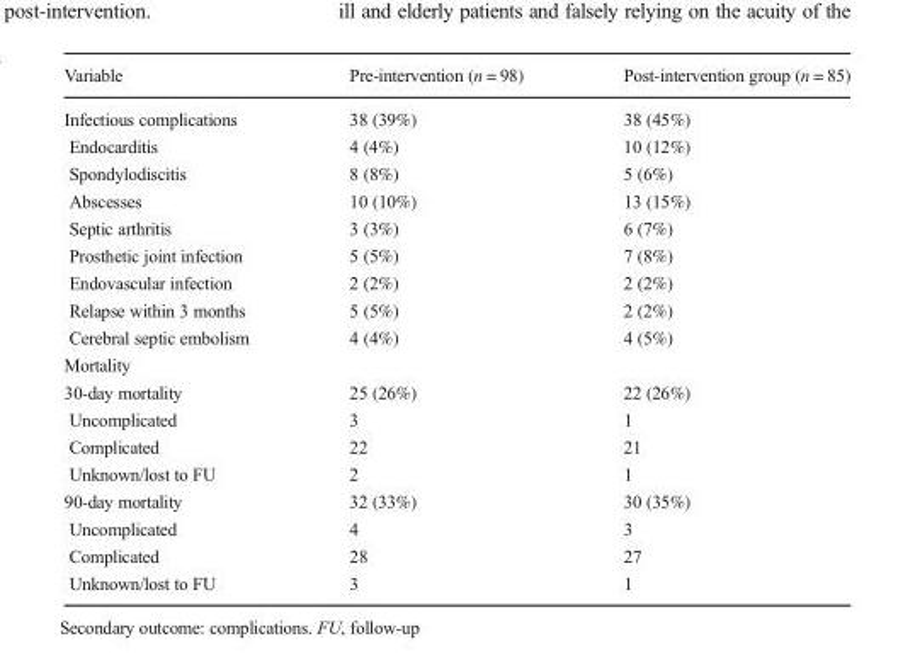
<table><thead><tr><td>Variable</td><td>Pre-intervention (n = 98)</td><td>Post-intervention group (n = 85)</td></tr></thead><tbody><tr><td>Infectious complications</td><td>38 (39%)</td><td>38 (45%)</td></tr><tr><td>Endocarditis</td><td>4 (4%)</td><td>10 (12%)</td></tr><tr><td>Spondylodiscitis</td><td>8 (8%)</td><td>5 (6%)</td></tr><tr><td>Abscesses</td><td>10 (10%)</td><td>13 (15%)</td></tr><tr><td>Septic arthritis</td><td>3 (3%)</td><td>6 (7%)</td></tr><tr><td>Prosthetic joint infection</td><td>5 (5%)</td><td>7 (8%)</td></tr><tr><td>Endovascular infection</td><td>2 (2%)</td><td>2 (2%)</td></tr><tr><td>Relapse within 3 months</td><td>5 (5%)</td><td>2 (2%)</td></tr><tr><td>Cerebral septic embolism</td><td>4 (4%)</td><td>4 (5%)</td></tr><tr><td colspan="3">Mortality</td></tr><tr><td>30-day mortality</td><td>25 (26%)</td><td>22 (26%)</td></tr><tr><td>Uncomplicated</td><td>3</td><td>1</td></tr><tr><td>Complicated</td><td>22</td><td>21</td></tr><tr><td>Unknown/lost to FU</td><td>2</td><td>1</td></tr><tr><td>90-day mortality</td><td>32 (33%)</td><td>30 (35%)</td></tr><tr><td>Uncomplicated</td><td>4</td><td>3</td></tr><tr><td>Complicated</td><td>28</td><td>27</td></tr><tr><td>Unknown/lost to FU</td><td>3</td><td>1</td></tr></tbody></table>